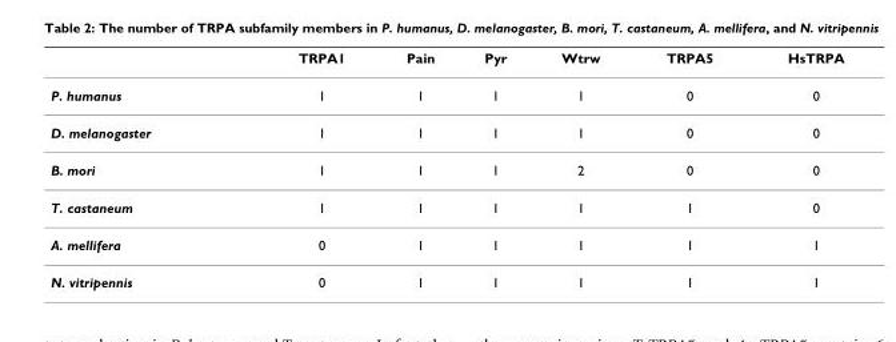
<table><thead><tr><td></td><td>TRPA1</td><td>Pain</td><td>Pyr</td><td>Wtrw</td><td>TRPA5</td><td>HsTRPA</td></tr></thead><tbody><tr><td>P. humanus</td><td>1</td><td>1</td><td>1</td><td>1</td><td>0</td><td>0</td></tr><tr><td>D. melanogaster</td><td>1</td><td>1</td><td>1</td><td>1</td><td>0</td><td>0</td></tr><tr><td>B. mori</td><td>1</td><td>1</td><td>1</td><td>2</td><td>0</td><td>0</td></tr><tr><td>T. castaneum</td><td>1</td><td>1</td><td>1</td><td>1</td><td>1</td><td>0</td></tr><tr><td>A. mellifera</td><td>0</td><td>1</td><td>1</td><td>1</td><td>1</td><td>1</td></tr><tr><td>N. vitripennis</td><td>0</td><td>1</td><td>1</td><td>1</td><td>1</td><td>1</td></tr></tbody></table>